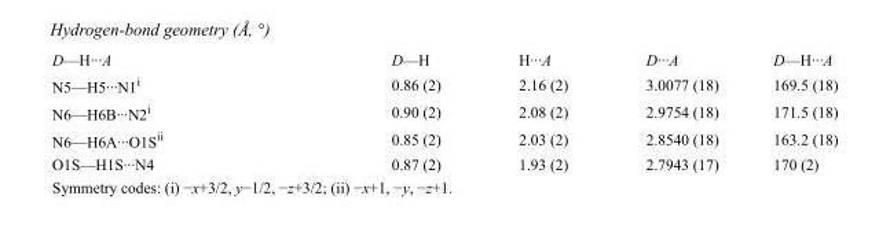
<table><tbody><tr><td>D—H···A</td><td>D—H</td><td>H···A</td><td>D···A</td><td>D—H···A</td></tr><tr><td>N5—H5···N1<sup>i</sup></td><td>0.86 (2)</td><td>2.16 (2)</td><td>3.0077 (18)</td><td>169.5 (18)</td></tr><tr><td>N6—H6B···N2<sup>i</sup></td><td>0.90 (2)</td><td>2.08 (2)</td><td>2.9754 (18)</td><td>171.5 (18)</td></tr><tr><td>N6—H6A···O1S<sup>ii</sup></td><td>0.85 (2)</td><td>2.03 (2)</td><td>2.8540 (18)</td><td>163.2 (18)</td></tr><tr><td>O1S—H1S···N4</td><td>0.87 (2)</td><td>1.93 (2)</td><td>2.7943 (17)</td><td>170 (2)</td></tr></tbody></table>